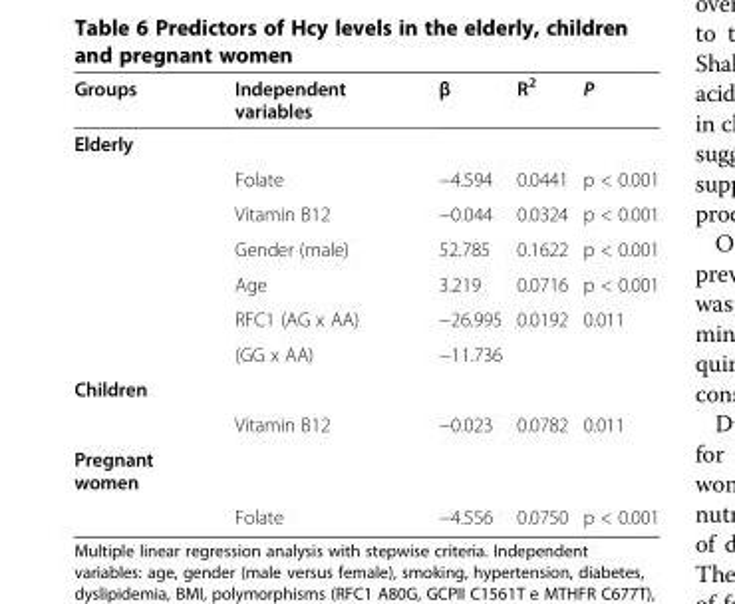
<table><thead><tr><td>Groups</td><td>Independent variables</td><td>β</td><td>R<sup>2</sup></td><td>P</td></tr></thead><tbody><tr><td colspan="5">Elderly</td></tr><tr><td></td><td>Folate</td><td>−4.594</td><td>0.0441</td><td>p &lt; 0.001</td></tr><tr><td></td><td>Vitamin B12</td><td>−0.044</td><td>0.0324</td><td>p &lt; 0.001</td></tr><tr><td></td><td>Gender (male)</td><td>52.785</td><td>0.1622</td><td>p &lt; 0.001</td></tr><tr><td></td><td>Age</td><td>3.219</td><td>0.0716</td><td>p &lt; 0.001</td></tr><tr><td></td><td>RFC1 (AG x AA)</td><td>−26.995</td><td>0.0192</td><td>0.011</td></tr><tr><td></td><td>(GG x AA)</td><td>−11.736</td><td></td><td></td></tr><tr><td colspan="5">Children</td></tr><tr><td></td><td>Vitamin B12</td><td>−0.023</td><td>0.0782</td><td>0.011</td></tr><tr><td colspan="5">Pregnant women</td></tr><tr><td></td><td>Folate</td><td>−4.556</td><td>0.0750</td><td>p &lt; 0.001</td></tr></tbody></table>